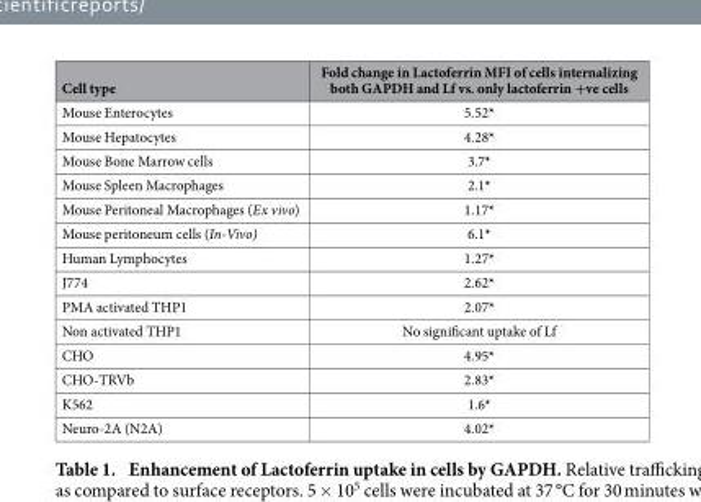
<table><thead><tr><td>Cell type</td><td>Fold change in Lactoferrin MFI of cells internalizing both GAPDH and Lf vs. only lactoferrin +ve cells</td></tr></thead><tbody><tr><td>Mouse Enterocytes</td><td>5.52*</td></tr><tr><td>Mouse Hepatocytes</td><td>4.28*</td></tr><tr><td>Mouse Bone Marrow cells</td><td>3.7*</td></tr><tr><td>Mouse Spleen Macrophages</td><td>2.1*</td></tr><tr><td>Mouse Peritoneal Macrophages (Ex vivo)</td><td>1.17*</td></tr><tr><td>Mouse peritoneum cells (In-Vivo)</td><td>6.1*</td></tr><tr><td>Human Lymphocytes</td><td>1.27*</td></tr><tr><td>J774</td><td>2.62*</td></tr><tr><td>PMA activated THP1</td><td>2.07*</td></tr><tr><td>Non activated THP1</td><td>No significant uptake of Lf</td></tr><tr><td>CHO</td><td>4.95*</td></tr><tr><td>CHO-TRVb</td><td>2.83*</td></tr><tr><td>K562</td><td>1.6*</td></tr><tr><td>Neuro-2A (N2A)</td><td>4.02*</td></tr></tbody></table>